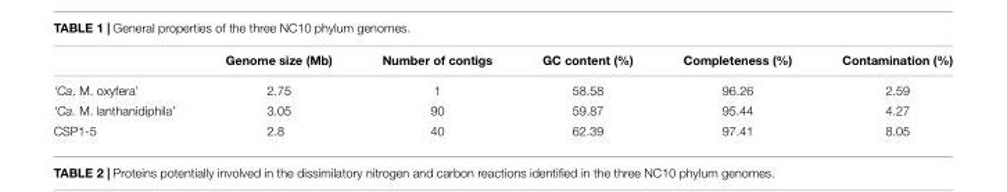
<table><thead><tr><td></td><td>Genome size (Mb)</td><td>Number of contigs</td><td>GC content (%)</td><td>Completeness (%)</td><td>Contamination (%)</td></tr></thead><tbody><tr><td>‘Ca. M. oxyfera’</td><td>2.75</td><td>1</td><td>58.58</td><td>96.26</td><td>2.59</td></tr><tr><td>‘Ca. M. lanthanidiphila’</td><td>3.05</td><td>90</td><td>59.87</td><td>95.44</td><td>4.27</td></tr><tr><td>CSP1-5</td><td>2.8</td><td>40</td><td>62.39</td><td>97.41</td><td>8.05</td></tr></tbody></table>